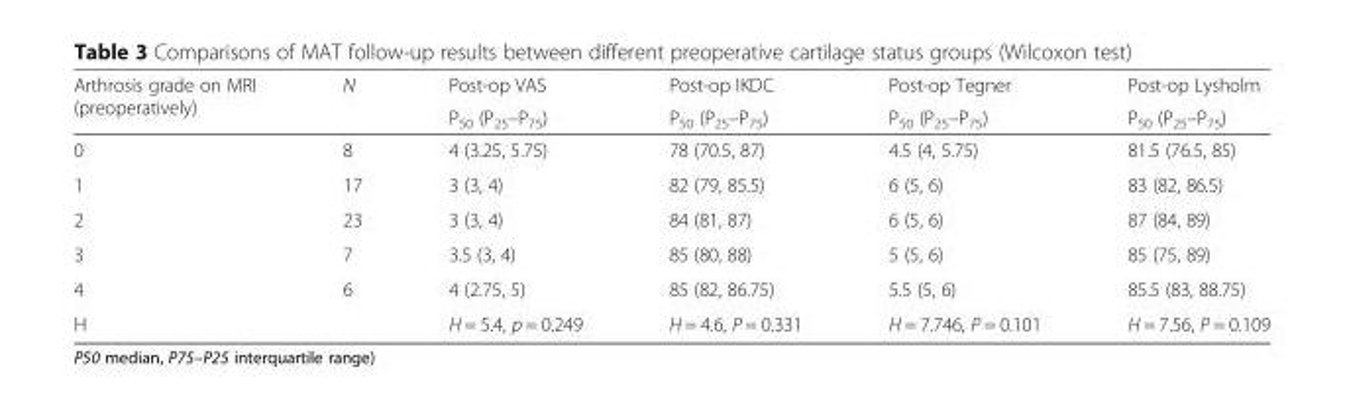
<table><thead><tr><td rowspan="2">Arthrosis grade on MRI (preoperatively)</td><td rowspan="2">N</td><td rowspan="2">Post-op VAS P<sub>50</sub> (P<sub>25</sub>–P<sub>75</sub>)</td><td rowspan="2">Post-op IKDC P<sub>50</sub> (P<sub>25</sub>–P<sub>75</sub>)</td><td rowspan="2">Post-op Tegner P<sub>50</sub> (P<sub>25</sub>–P<sub>75</sub>)</td><td rowspan="2">Post-op Lysholm P<sub>50</sub> (P<sub>25</sub>–P<sub>75</sub>)</td></tr><tr></tr></thead><tbody><tr><td>0</td><td>8</td><td>4 (3.25, 5.75)</td><td>78 (70.5, 87)</td><td>4.5 (4, 5.75)</td><td>81.5 (76.5, 85)</td></tr><tr><td>1</td><td>17</td><td>3 (3, 4)</td><td>82 (79, 85.5)</td><td>6 (5, 6)</td><td>83 (82, 86.5)</td></tr><tr><td>2</td><td>23</td><td>3 (3, 4)</td><td>84 (81, 87)</td><td>6 (5, 6)</td><td>87 (84, 89)</td></tr><tr><td>3</td><td>7</td><td>3.5 (3, 4)</td><td>85 (80, 88)</td><td>5 (5, 6)</td><td>85 (75, 89)</td></tr><tr><td>4</td><td>6</td><td>4 (2.75, 5)</td><td>85 (82, 86.75)</td><td>5.5 (5, 6)</td><td>85.5 (83, 88.75)</td></tr><tr><td>H</td><td></td><td>H = 5.4, p = 0.249</td><td>H = 4.6, P = 0.331</td><td>H = 7.746, P = 0.101</td><td>H = 7.56, P = 0.109</td></tr></tbody></table>